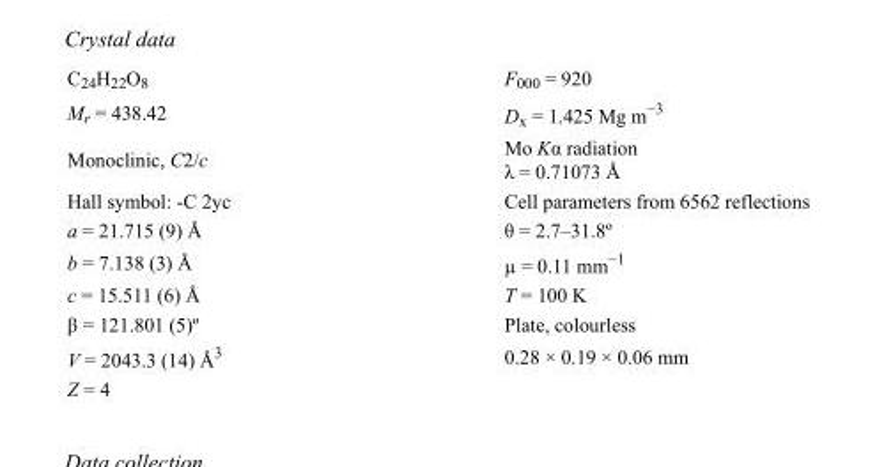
<table><tbody><tr><td>C<sub>24</sub>H<sub>22</sub>O<sub>8</sub></td><td>F000 = 920</td></tr><tr><td>M<sub>r</sub> = 438.42</td><td>D<sub>x</sub> = 1.425 Mg m<sup>−3</sup></td></tr><tr><td>Monoclinic, C2/c</td><td>Mo Kα radiation λ = 0.71073 Å</td></tr><tr><td>Hall symbol: -C 2yc</td><td>Cell parameters from 6562 reflections</td></tr><tr><td>a = 21.715 (9) Å</td><td>θ = 2.7–31.8º</td></tr><tr><td>b = 7.138 (3) Å</td><td>µ = 0.11 mm<sup>−1</sup></td></tr><tr><td>c = 15.511 (6) Å</td><td>T = 100 K</td></tr><tr><td>β = 121.801 (5)º</td><td>Plate, colourless</td></tr><tr><td>V = 2043.3 (14) Å<sup>3</sup></td><td>0.28 × 0.19 × 0.06 mm</td></tr><tr><td>Z = 4</td><td></td></tr></tbody></table>